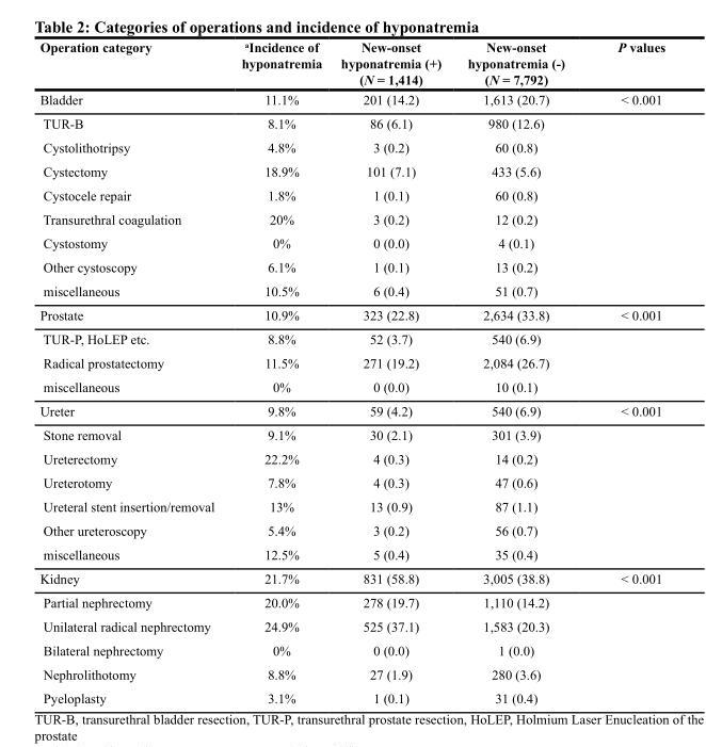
<table><thead><tr><td>Operation category</td><td><sup>a</sup>Incidence of hyponatremia</td><td>New-onset hyponatremia (+) (N = 1,414)</td><td>New-onset hyponatremia (-) (N = 7,792)</td><td>P values</td></tr></thead><tbody><tr><td>Bladder</td><td>11.1%</td><td>201 (14.2)</td><td>1,613 (20.7)</td><td>&lt; 0.001</td></tr><tr><td>TUR-B</td><td>8.1%</td><td>86 (6.1)</td><td>980 (12.6)</td><td></td></tr><tr><td>Cystolithotripsy</td><td>4.8%</td><td>3 (0.2)</td><td>60 (0.8)</td><td></td></tr><tr><td>Cystectomy</td><td>18.9%</td><td>101 (7.1)</td><td>433 (5.6)</td><td></td></tr><tr><td>Cystocele repair</td><td>1.8%</td><td>1 (0.1)</td><td>60 (0.8)</td><td></td></tr><tr><td>Transurethral coagulation</td><td>20%</td><td>3 (0.2)</td><td>12 (0.2)</td><td></td></tr><tr><td>Cystostomy</td><td>0%</td><td>0 (0.0)</td><td>4 (0.1)</td><td></td></tr><tr><td>Other cystoscopy</td><td>6.1%</td><td>1 (0.1)</td><td>13 (0.2)</td><td></td></tr><tr><td>miscellaneous</td><td>10.5%</td><td>6 (0.4)</td><td>51 (0.7)</td><td></td></tr><tr><td>Prostate</td><td>10.9%</td><td>323 (22.8)</td><td>2,634 (33.8)</td><td>&lt; 0.001</td></tr><tr><td>TUR-P, HoLEP etc.</td><td>8.8%</td><td>52 (3.7)</td><td>540 (6.9)</td><td></td></tr><tr><td>Radical prostatectomy</td><td>11.5%</td><td>271 (19.2)</td><td>2,084 (26.7)</td><td></td></tr><tr><td>miscellaneous</td><td>0%</td><td>0 (0.0)</td><td>10 (0.1)</td><td></td></tr><tr><td>Ureter</td><td>9.8%</td><td>59 (4.2)</td><td>540 (6.9)</td><td>&lt; 0.001</td></tr><tr><td>Stone removal</td><td>9.1%</td><td>30 (2.1)</td><td>301 (3.9)</td><td></td></tr><tr><td>Ureterectomy</td><td>22.2%</td><td>4 (0.3)</td><td>14 (0.2)</td><td></td></tr><tr><td>Ureterotomy</td><td>7.8%</td><td>4 (0.3)</td><td>47 (0.6)</td><td></td></tr><tr><td>Ureteral stent insertion/removal</td><td>13%</td><td>13 (0.9)</td><td>87 (1.1)</td><td></td></tr><tr><td>Other ureteroscopy</td><td>5.4%</td><td>3 (0.2)</td><td>56 (0.7)</td><td></td></tr><tr><td>miscellaneous</td><td>12.5%</td><td>5 (0.4)</td><td>35 (0.4)</td><td></td></tr><tr><td>Kidney</td><td>21.7%</td><td>831 (58.8)</td><td>3,005 (38.8)</td><td>&lt; 0.001</td></tr><tr><td>Partial nephrectomy</td><td>20.0%</td><td>278 (19.7)</td><td>1,110 (14.2)</td><td></td></tr><tr><td>Unilateral radical nephrectomy</td><td>24.9%</td><td>525 (37.1)</td><td>1,583 (20.3)</td><td></td></tr><tr><td>Bilateral nephrectomy</td><td>0%</td><td>0 (0.0)</td><td>1 (0.0)</td><td></td></tr><tr><td>Nephrolithotomy</td><td>8.8%</td><td>27 (1.9)</td><td>280 (3.6)</td><td></td></tr><tr><td>Pyeloplasty</td><td>3.1%</td><td>1 (0.1)</td><td>31 (0.4)</td><td></td></tr></tbody></table>